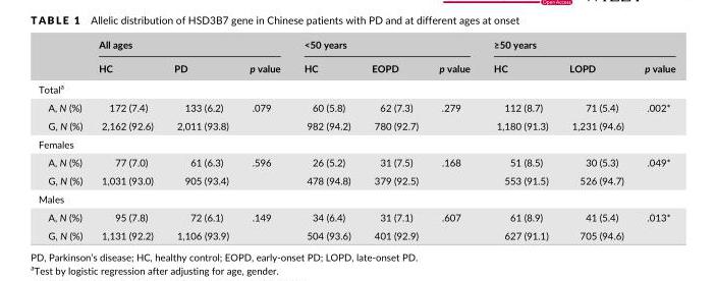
<table><thead><tr><td rowspan="2"></td><td colspan="3">All ages</td><td colspan="3">&lt;50 years</td><td colspan="3">≥50 years</td></tr><tr><td>HC</td><td>PD</td><td>p value</td><td>HC</td><td>EOPD</td><td>p value</td><td>HC</td><td>LOPD</td><td>p value</td></tr></thead><tbody><tr><td colspan="10">Total<sup>a</sup></td></tr><tr><td>A, N (%)</td><td>172 (7.4)</td><td>133 (6.2)</td><td>.079</td><td>60 (5.8)</td><td>62 (7.3)</td><td>.279</td><td>112 (8.7)</td><td>71 (5.4)</td><td>.002*</td></tr><tr><td>G, N (%)</td><td>2,162 (92.6)</td><td>2,011 (93.8)</td><td></td><td>982 (94.2)</td><td>780 (92.7)</td><td></td><td>1,180 (91.3)</td><td>1,231 (94.6)</td><td></td></tr><tr><td colspan="10">Females</td></tr><tr><td>A, N (%)</td><td>77 (7.0)</td><td>61 (6.3)</td><td>.596</td><td>26 (5.2)</td><td>31 (7.5)</td><td>.168</td><td>51 (8.5)</td><td>30 (5.3)</td><td>.049*</td></tr><tr><td>G, N (%)</td><td>1,031 (93.0)</td><td>905 (93.4)</td><td></td><td>478 (94.8)</td><td>379 (92.5)</td><td></td><td>553 (91.5)</td><td>526 (94.7)</td><td></td></tr><tr><td colspan="10">Males</td></tr><tr><td>A, N (%)</td><td>95 (7.8)</td><td>72 (6.1)</td><td>.149</td><td>34 (6.4)</td><td>31 (7.1)</td><td>.607</td><td>61 (8.9)</td><td>41 (5.4)</td><td>.013*</td></tr><tr><td>G, N (%)</td><td>1,131 (92.2)</td><td>1,106 (93.9)</td><td></td><td>504 (93.6)</td><td>401 (92.9)</td><td></td><td>627 (91.1)</td><td>705 (94.6)</td><td></td></tr></tbody></table>